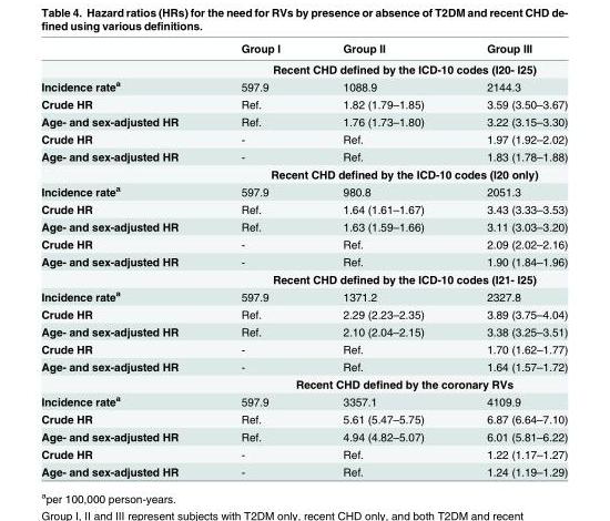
<table><thead><tr><td></td><td>Group I</td><td>Group II</td><td>Group III</td></tr></thead><tbody><tr><td></td><td colspan="3">Recent CHD defined by the ICD-10 codes (I20- I25)</td></tr><tr><td>Incidence rate<sup>a</sup></td><td>597.9</td><td>1088.9</td><td>2144.3</td></tr><tr><td>Crude HR</td><td>Ref.</td><td>1.82 (1.79–1.85)</td><td>3.59 (3.50–3.67)</td></tr><tr><td>Age- and sex-adjusted HR</td><td>Ref.</td><td>1.76 (1.73–1.80)</td><td>3.22 (3.15–3.30)</td></tr><tr><td>Crude HR</td><td>-</td><td>Ref.</td><td>1.97 (1.92–2.02)</td></tr><tr><td rowspan="2">Age- and sex-adjusted HR</td><td>-</td><td>Ref.</td><td>1.83 (1.78–1.88)</td></tr><tr><td colspan="3">Recent CHD defined by the ICD-10 codes (I20 only)</td></tr><tr><td>Incidence rate<sup>a</sup></td><td>597.9</td><td>980.8</td><td>2051.3</td></tr><tr><td>Crude HR</td><td>Ref.</td><td>1.64 (1.61–1.67)</td><td>3.43 (3.33–3.53)</td></tr><tr><td>Age- and sex-adjusted HR</td><td>Ref.</td><td>1.63 (1.59–1.66)</td><td>3.11 (3.03–3.20)</td></tr><tr><td>Crude HR</td><td>-</td><td>Ref.</td><td>2.09 (2.02–2.16)</td></tr><tr><td rowspan="2">Age- and sex-adjusted HR</td><td>-</td><td>Ref.</td><td>1.90 (1.84–1.96)</td></tr><tr><td colspan="3">Recent CHD defined by the ICD-10 codes (I21- I25)</td></tr><tr><td>Incidence rate<sup>a</sup></td><td>597.9</td><td>1371.2</td><td>2327.8</td></tr><tr><td>Crude HR</td><td>Ref.</td><td>2.29 (2.23–2.35)</td><td>3.89 (3.75–4.04)</td></tr><tr><td>Age- and sex-adjusted HR</td><td>Ref.</td><td>2.10 (2.04–2.15)</td><td>3.38 (3.25–3.51)</td></tr><tr><td>Crude HR</td><td>-</td><td>Ref.</td><td>1.70 (1.62–1.77)</td></tr><tr><td rowspan="2">Age- and sex-adjusted HR</td><td>-</td><td>Ref.</td><td>1.64 (1.57–1.72)</td></tr><tr><td colspan="3">Recent CHD defined by the coronary RVs</td></tr><tr><td>Incidence rate<sup>a</sup></td><td>597.9</td><td>3357.1</td><td>4109.9</td></tr><tr><td>Crude HR</td><td>Ref.</td><td>5.61 (5.47–5.75)</td><td>6.87 (6.64–7.10)</td></tr><tr><td>Age- and sex-adjusted HR</td><td>Ref.</td><td>4.94 (4.82–5.07)</td><td>6.01 (5.81–6.22)</td></tr><tr><td>Crude HR</td><td>-</td><td>Ref.</td><td>1.22 (1.17–1.27)</td></tr><tr><td>Age- and sex-adjusted HR</td><td>-</td><td>Ref.</td><td>1.24 (1.19–1.29)</td></tr></tbody></table>